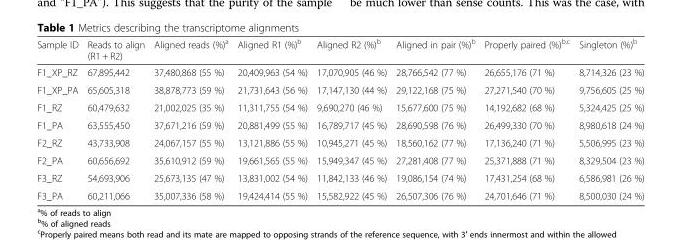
<table><thead><tr><td>Sample ID</td><td>Reads to align (R1 + R2)</td><td>Aligned reads (%)<sup>a</sup></td><td>Aligned R1 (%)<sup>b</sup></td><td>Aligned R2 (%)<sup>b</sup></td><td>Aligned in pair (%)<sup>b</sup></td><td>Properly paired (%)<sup>b,c</sup></td><td>Singleton (%)<sup>b</sup></td></tr></thead><tbody><tr><td>F1_XP_RZ</td><td>67,895,442</td><td>37,480,868 (55 %)</td><td>20,409,963 (54 %)</td><td>17,070,905 (46 %)</td><td>28,766,542 (77 %)</td><td>26,655,176 (71 %)</td><td>8,714,326 (23 %)</td></tr><tr><td>F1_XP_PA</td><td>65,605,318</td><td>38,878,773 (59 %)</td><td>21,731,643 (56 %)</td><td>17,147,130 (44 %)</td><td>29,122,168 (75 %)</td><td>27,271,540 (70 %)</td><td>9,756,605 (25 %)</td></tr><tr><td>F1_RZ</td><td>60,479,632</td><td>21,002,025 (35 %)</td><td>11,311,755 (54 %)</td><td>9,690,270 (46 %)</td><td>15,677,600 (75 %)</td><td>14,192,682 (68 %)</td><td>5,324,425 (25 %)</td></tr><tr><td>F1_PA</td><td>63,555,450</td><td>37,671,216 (59 %)</td><td>20,881,499 (55 %)</td><td>16,789,717 (45 %)</td><td>28,690,598 (76 %)</td><td>26,499,330 (70 %)</td><td>8,980,618 (24 %)</td></tr><tr><td>F2_RZ</td><td>43,733,908</td><td>24,067,157 (55 %)</td><td>13,121,886 (55 %)</td><td>10,945,271 (45 %)</td><td>18,560,162 (77 %)</td><td>17,136,240 (71 %)</td><td>5,506,995 (23 %)</td></tr><tr><td>F2_PA</td><td>60,656,692</td><td>35,610,912 (59 %)</td><td>19,661,565 (55 %)</td><td>15,949,347 (45 %)</td><td>27,281,408 (77 %)</td><td>25,371,888 (71 %)</td><td>8,329,504 (23 %)</td></tr><tr><td>F3_RZ</td><td>54,693,906</td><td>25,673,135 (47 %)</td><td>13,831,002 (54 %)</td><td>11,842,133 (46 %)</td><td>19,086,154 (74 %)</td><td>17,431,254 (68 %)</td><td>6,586,981 (26 %)</td></tr><tr><td>F3_PA</td><td>60,211,066</td><td>35,007,336 (58 %)</td><td>19,424,414 (55 %)</td><td>15,582,922 (45 %)</td><td>26,507,306 (76 %)</td><td>24,701,646 (71 %)</td><td>8,500,030 (24 %)</td></tr></tbody></table>